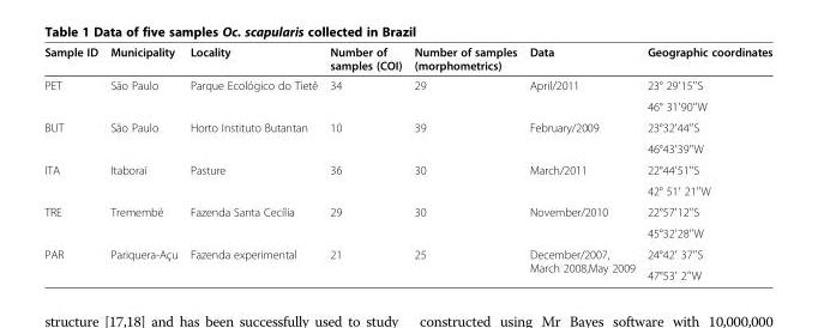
<table><thead><tr><td>Sample ID</td><td>Municipality</td><td>Locality</td><td>Number of samples (COI)</td><td>Number of samples (morphometrics)</td><td>Data</td><td>Geographic coordinates</td></tr></thead><tbody><tr><td rowspan="2">PET</td><td rowspan="2">São Paulo</td><td rowspan="2">Parque Ecológico do Tietê</td><td rowspan="2">34</td><td rowspan="2">29</td><td rowspan="2">April/2011</td><td>23° 29′15″S</td></tr><tr><td>46° 31′90″W</td></tr><tr><td rowspan="2">BUT</td><td rowspan="2">São Paulo</td><td rowspan="2">Horto Instituto Butantan</td><td rowspan="2">10</td><td rowspan="2">39</td><td rowspan="2">February/2009</td><td>23°32′44″S</td></tr><tr><td>46°43′39″W</td></tr><tr><td rowspan="2">ITA</td><td rowspan="2">Itaboraí</td><td rowspan="2">Pasture</td><td rowspan="2">36</td><td rowspan="2">30</td><td rowspan="2">March/2011</td><td>22°44′51″S</td></tr><tr><td>42° 51′ 21″W</td></tr><tr><td rowspan="2">TRE</td><td rowspan="2">Tremembé</td><td rowspan="2">Fazenda Santa Cecília</td><td rowspan="2">29</td><td rowspan="2">30</td><td rowspan="2">November/2010</td><td>22°57′12″S</td></tr><tr><td>45°32′28″W</td></tr><tr><td rowspan="2">PAR</td><td rowspan="2">Pariquera-Açu</td><td rowspan="2">Fazenda experimental</td><td rowspan="2">21</td><td rowspan="2">25</td><td rowspan="2">December/2007, March 2008,May 2009</td><td>24°42′ 37″S</td></tr><tr><td>47°53′ 2″W</td></tr></tbody></table>